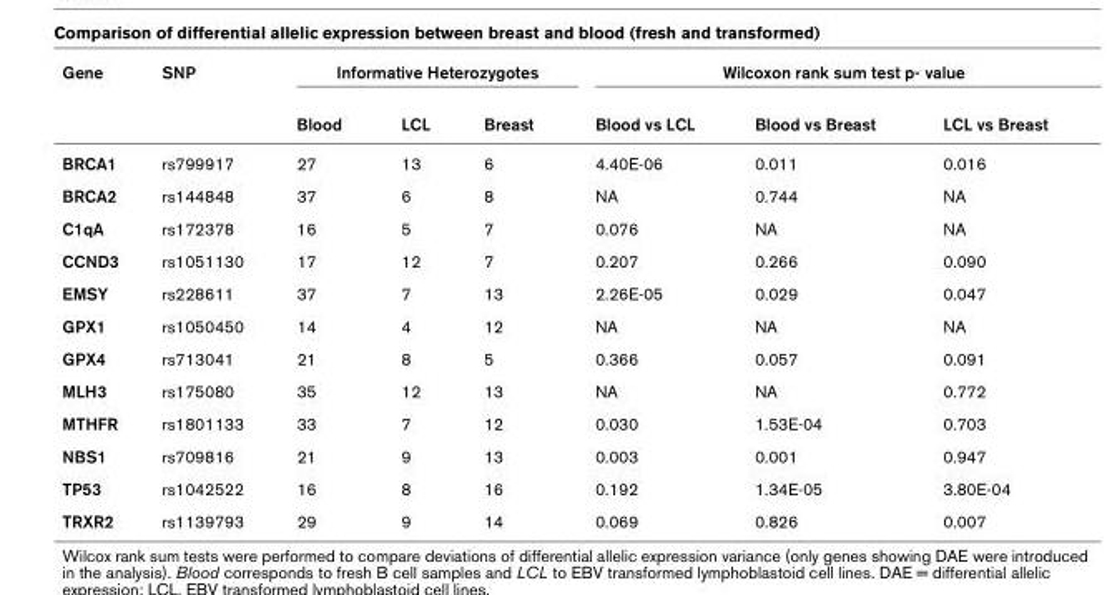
<table><thead><tr><td rowspan="2">Gene</td><td rowspan="2">SNP</td><td colspan="3">Informative Heterozygotes</td><td colspan="3">Wilcoxon rank sum test p- value</td></tr><tr><td>Blood</td><td>LCL</td><td>Breast</td><td>Blood vs LCL</td><td>Blood vs Breast</td><td>LCL vs Breast</td></tr></thead><tbody><tr><td>BRCA1</td><td>rs799917</td><td>27</td><td>13</td><td>6</td><td>4.40E-06</td><td>0.011</td><td>0.016</td></tr><tr><td>BRCA2</td><td>rs144848</td><td>37</td><td>6</td><td>8</td><td>NA</td><td>0.744</td><td>NA</td></tr><tr><td>C1qA</td><td>rs172378</td><td>16</td><td>5</td><td>7</td><td>0.076</td><td>NA</td><td>NA</td></tr><tr><td>CCND3</td><td>rs1051130</td><td>17</td><td>12</td><td>7</td><td>0.207</td><td>0.266</td><td>0.090</td></tr><tr><td>EMSY</td><td>rs228611</td><td>37</td><td>7</td><td>13</td><td>2.26E-05</td><td>0.029</td><td>0.047</td></tr><tr><td>GPX1</td><td>rs1050450</td><td>14</td><td>4</td><td>12</td><td>NA</td><td>NA</td><td>NA</td></tr><tr><td>GPX4</td><td>rs713041</td><td>21</td><td>8</td><td>5</td><td>0.366</td><td>0.057</td><td>0.091</td></tr><tr><td>MLH3</td><td>rs175080</td><td>35</td><td>12</td><td>13</td><td>NA</td><td>NA</td><td>0.772</td></tr><tr><td>MTHFR</td><td>rs1801133</td><td>33</td><td>7</td><td>12</td><td>0.030</td><td>1.53E-04</td><td>0.703</td></tr><tr><td>NBS1</td><td>rs709816</td><td>21</td><td>9</td><td>13</td><td>0.003</td><td>0.001</td><td>0.947</td></tr><tr><td>TP53</td><td>rs1042522</td><td>16</td><td>8</td><td>16</td><td>0.192</td><td>1.34E-05</td><td>3.80E-04</td></tr><tr><td>TRXR2</td><td>rs1139793</td><td>29</td><td>9</td><td>14</td><td>0.069</td><td>0.826</td><td>0.007</td></tr></tbody></table>